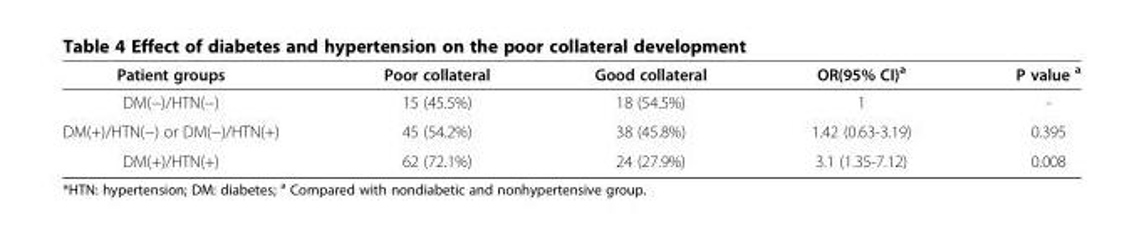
<table><thead><tr><td>Patient groups</td><td>Poor collateral</td><td>Good collateral</td><td>OR(95% CI)<sup>a</sup></td><td>P value <sup>a</sup></td></tr></thead><tbody><tr><td>DM(−)/HTN(−)</td><td>15 (45.5%)</td><td>18 (54.5%)</td><td>1</td><td>-</td></tr><tr><td>DM(+)/HTN(−) or DM(−)/HTN(+)</td><td>45 (54.2%)</td><td>38 (45.8%)</td><td>1.42 (0.63-3.19)</td><td>0.395</td></tr><tr><td>DM(+)/HTN(+)</td><td>62 (72.1%)</td><td>24 (27.9%)</td><td>3.1 (1.35-7.12)</td><td>0.008</td></tr></tbody></table>